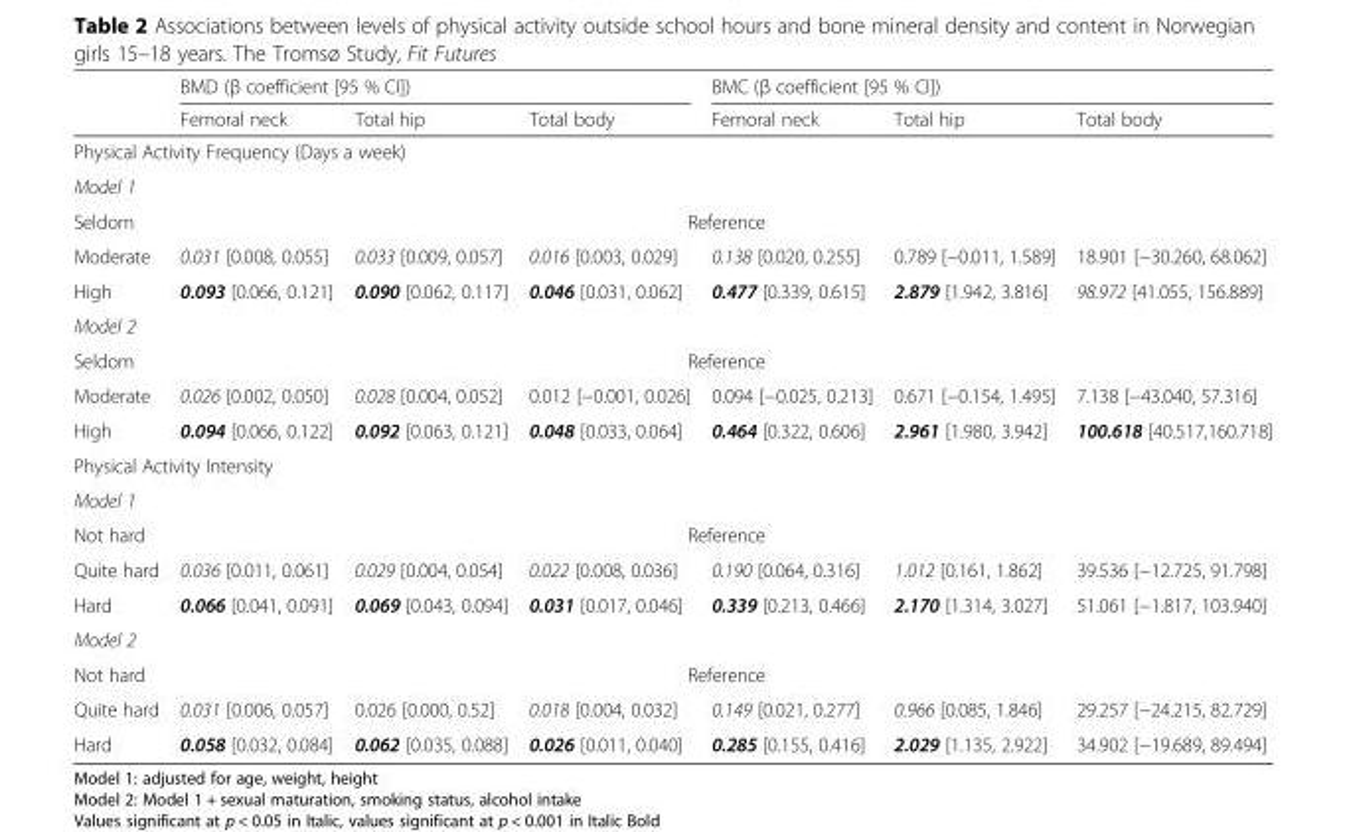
<table><thead><tr><td rowspan="2"></td><td colspan="3">BMD (β coefficient [95 % CI])</td><td colspan="3">BMC (β coefficient [95 % CI])</td></tr><tr><td>Femoral neck</td><td>Total hip</td><td>Total body</td><td>Femoral neck</td><td>Total hip</td><td>Total body</td></tr></thead><tbody><tr><td colspan="7">Physical Activity Frequency (Days a week)</td></tr><tr><td colspan="7">Model 1</td></tr><tr><td>Seldom</td><td colspan="6">Reference</td></tr><tr><td>Moderate</td><td>0.031 [0.008, 0.055]</td><td>0.033 [0.009, 0.057]</td><td>0.016 [0.003, 0.029]</td><td>0.138 [0.020, 0.255]</td><td>0.789 [−0.011, 1.589]</td><td>18.901 [−30.260, 68.062]</td></tr><tr><td>High</td><td>0.093 [0.066, 0.121]</td><td>0.090 [0.062, 0.117]</td><td>0.046 [0.031, 0.062]</td><td>0.477 [0.339, 0.615]</td><td>2.879 [1.942, 3.816]</td><td>98.972 [41.055, 156.889]</td></tr><tr><td colspan="7">Model 2</td></tr><tr><td>Seldom</td><td colspan="6">Reference</td></tr><tr><td>Moderate</td><td>0.026 [0.002, 0.050]</td><td>0.028 [0.004, 0.052]</td><td>0.012 [−0.001, 0.026]</td><td>0.094 [−0.025, 0.213]</td><td>0.671 [−0.154, 1.495]</td><td>7.138 [−43.040, 57.316]</td></tr><tr><td>High</td><td>0.094 [0.066, 0.122]</td><td>0.092 [0.063, 0.121]</td><td>0.048 [0.033, 0.064]</td><td>0.464 [0.322, 0.606]</td><td>2.961 [1.980, 3.942]</td><td>100.618 [40.517,160.718]</td></tr><tr><td colspan="7">Physical Activity Intensity</td></tr><tr><td colspan="7">Model 1</td></tr><tr><td>Not hard</td><td colspan="6">Reference</td></tr><tr><td>Quite hard</td><td>0.036 [0.011, 0.061]</td><td>0.029 [0.004, 0.054]</td><td>0.022 [0.008, 0.036]</td><td>0.190 [0.064, 0.316]</td><td>1.012 [0.161, 1.862]</td><td>39.536 [−12.725, 91.798]</td></tr><tr><td>Hard</td><td>0.066 [0.041, 0.091]</td><td>0.069 [0.043, 0.094]</td><td>0.031 [0.017, 0.046]</td><td>0.339 [0.213, 0.466]</td><td>2.170 [1.314, 3.027]</td><td>51.061 [−1.817, 103.940]</td></tr><tr><td colspan="7">Model 2</td></tr><tr><td>Not hard</td><td colspan="6">Reference</td></tr><tr><td>Quite hard</td><td>0.031 [0.006, 0.057]</td><td>0.026 [0.000, 0.52]</td><td>0.018 [0.004, 0.032]</td><td>0.149 [0.021, 0.277]</td><td>0.966 [0.085, 1.846]</td><td>29.257 [−24.215, 82.729]</td></tr><tr><td>Hard</td><td>0.058 [0.032, 0.084]</td><td>0.062 [0.035, 0.088]</td><td>0.026 [0.011, 0.040]</td><td>0.285 [0.155, 0.416]</td><td>2.029 [1.135, 2.922]</td><td>34.902 [−19.689, 89.494]</td></tr></tbody></table>